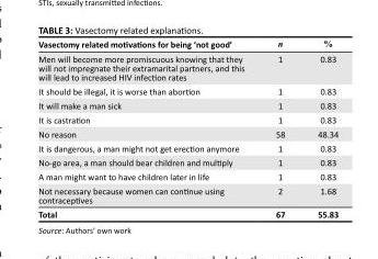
<table><thead><tr><td>Vasectomy related motivations for being ‘not good’</td><td>n</td><td>%</td></tr></thead><tbody><tr><td>Men will become more promiscuous knowing that they will not impregnate their extramarital partners, and this will lead to increased HIV infection rates</td><td>1</td><td>0.83</td></tr><tr><td>It should be illegal, it is worse than abortion</td><td>1</td><td>0.83</td></tr><tr><td>It will make a man sick</td><td>1</td><td>0.83</td></tr><tr><td>It is castration</td><td>1</td><td>0.83</td></tr><tr><td>No reason</td><td>58</td><td>48.34</td></tr><tr><td>It is dangerous, a man might not get erection anymore</td><td>1</td><td>0.83</td></tr><tr><td>No-go area, a man should bear children and multiply</td><td>1</td><td>0.83</td></tr><tr><td>A man might want to have children later in life</td><td>1</td><td>0.83</td></tr><tr><td>Not necessary because women can continue using contraceptives</td><td>2</td><td>1.68</td></tr><tr><td>Total</td><td>67</td><td>55.83</td></tr></tbody></table>